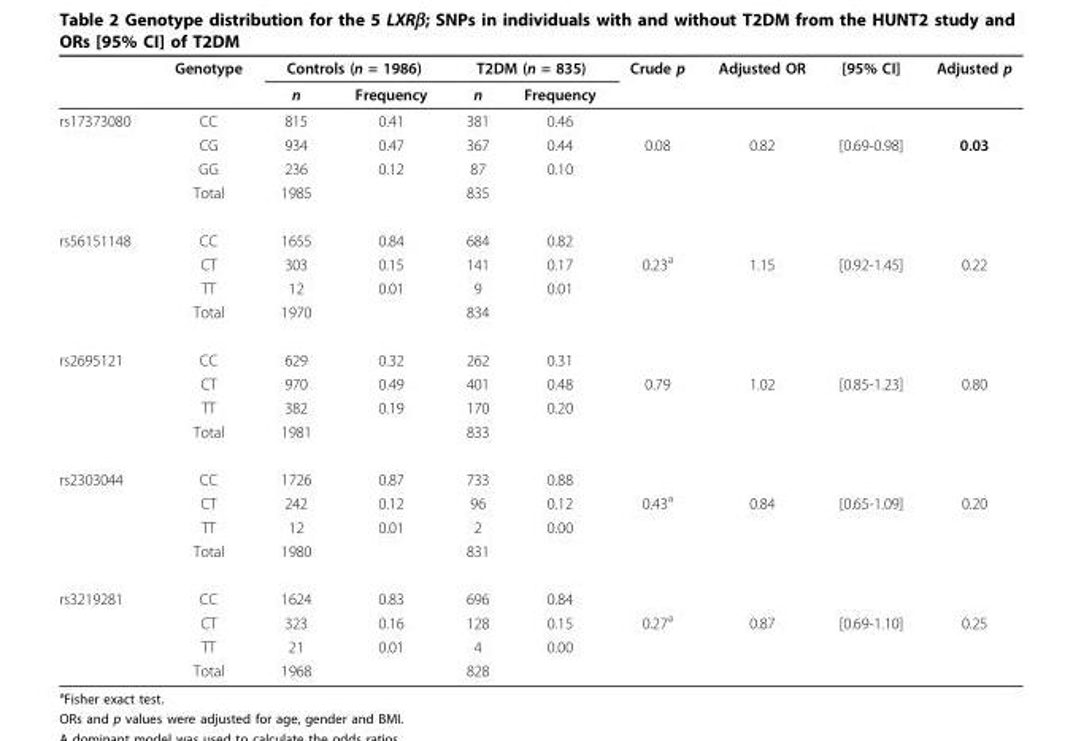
<table><thead><tr><td rowspan="2"></td><td rowspan="2">Genotype</td><td colspan="2">Controls (n = 1986)</td><td colspan="2">T2DM (n = 835)</td><td rowspan="2">Crude p</td><td rowspan="2">Adjusted OR</td><td rowspan="2">[95% CI]</td><td rowspan="2">Adjusted p</td></tr><tr><td>n</td><td>Frequency</td><td>n</td><td>Frequency</td></tr></thead><tbody><tr><td rowspan="4">rs17373080</td><td>CC</td><td>815</td><td>0.41</td><td>381</td><td>0.46</td><td></td><td></td><td></td><td></td></tr><tr><td>CG</td><td>934</td><td>0.47</td><td>367</td><td>0.44</td><td>0.08</td><td>0.82</td><td>[0.69-0.98]</td><td>0.03</td></tr><tr><td>GG</td><td>236</td><td>0.12</td><td>87</td><td>0.10</td><td></td><td></td><td></td><td></td></tr><tr><td>Total</td><td>1985</td><td></td><td>835</td><td></td><td></td><td></td><td></td><td></td></tr><tr><td rowspan="4">rs56151148</td><td>CC</td><td>1655</td><td>0.84</td><td>684</td><td>0.82</td><td></td><td></td><td></td><td></td></tr><tr><td>CT</td><td>303</td><td>0.15</td><td>141</td><td>0.17</td><td>0.23<sup>a</sup></td><td>1.15</td><td>[0.92-1.45]</td><td>0.22</td></tr><tr><td>TT</td><td>12</td><td>0.01</td><td>9</td><td>0.01</td><td></td><td></td><td></td><td></td></tr><tr><td>Total</td><td>1970</td><td></td><td>834</td><td></td><td></td><td></td><td></td><td></td></tr><tr><td rowspan="4">rs2695121</td><td>CC</td><td>629</td><td>0.32</td><td>262</td><td>0.31</td><td></td><td></td><td></td><td></td></tr><tr><td>CT</td><td>970</td><td>0.49</td><td>401</td><td>0.48</td><td>0.79</td><td>1.02</td><td>[0.85-1.23]</td><td>0.80</td></tr><tr><td>TT</td><td>382</td><td>0.19</td><td>170</td><td>0.20</td><td></td><td></td><td></td><td></td></tr><tr><td>Total</td><td>1981</td><td></td><td>833</td><td></td><td></td><td></td><td></td><td></td></tr><tr><td rowspan="4">rs2303044</td><td>CC</td><td>1726</td><td>0.87</td><td>733</td><td>0.88</td><td></td><td></td><td></td><td></td></tr><tr><td>CT</td><td>242</td><td>0.12</td><td>96</td><td>0.12</td><td>0.43<sup>a</sup></td><td>0.84</td><td>[0.65-1.09]</td><td>0.20</td></tr><tr><td>TT</td><td>12</td><td>0.01</td><td>2</td><td>0.00</td><td></td><td></td><td></td><td></td></tr><tr><td>Total</td><td>1980</td><td></td><td>831</td><td></td><td></td><td></td><td></td><td></td></tr><tr><td rowspan="4">rs3219281</td><td>CC</td><td>1624</td><td>0.83</td><td>696</td><td>0.84</td><td></td><td></td><td></td><td></td></tr><tr><td>CT</td><td>323</td><td>0.16</td><td>128</td><td>0.15</td><td>0.27<sup>a</sup></td><td>0.87</td><td>[0.69-1.10]</td><td>0.25</td></tr><tr><td>TT</td><td>21</td><td>0.01</td><td>4</td><td>0.00</td><td></td><td></td><td></td><td></td></tr><tr><td>Total</td><td>1968</td><td></td><td>828</td><td></td><td></td><td></td><td></td><td></td></tr></tbody></table>